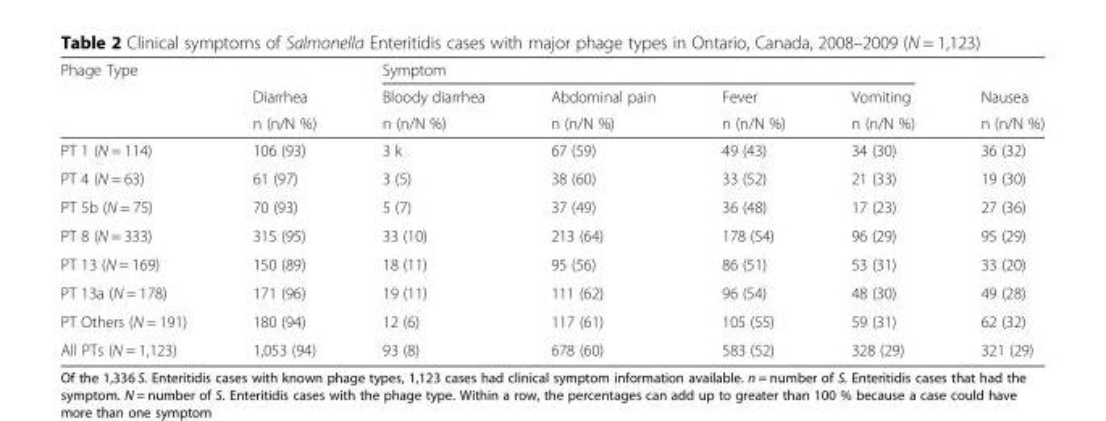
<table><thead><tr><td rowspan="3">Phage Type</td><td rowspan="3">Diarrhea n (n/N %)</td><td colspan="4">Symptom</td><td rowspan="3">Nausea n (n/N %)</td></tr><tr><td rowspan="2">Bloody diarrhea n (n/N %)</td><td rowspan="2">Abdominal pain n (n/N %)</td><td rowspan="2">Fever n (n/N %)</td><td rowspan="2">Vomiting n (n/N %)</td></tr><tr></tr></thead><tbody><tr><td>PT 1 (N = 114)</td><td>106 (93)</td><td>3 k</td><td>67 (59)</td><td>49 (43)</td><td>34 (30)</td><td>36 (32)</td></tr><tr><td>PT 4 (N = 63)</td><td>61 (97)</td><td>3 (5)</td><td>38 (60)</td><td>33 (52)</td><td>21 (33)</td><td>19 (30)</td></tr><tr><td>PT 5b (N = 75)</td><td>70 (93)</td><td>5 (7)</td><td>37 (49)</td><td>36 (48)</td><td>17 (23)</td><td>27 (36)</td></tr><tr><td>PT 8 (N = 333)</td><td>315 (95)</td><td>33 (10)</td><td>213 (64)</td><td>178 (54)</td><td>96 (29)</td><td>95 (29)</td></tr><tr><td>PT 13 (N = 169)</td><td>150 (89)</td><td>18 (11)</td><td>95 (56)</td><td>86 (51)</td><td>53 (31)</td><td>33 (20)</td></tr><tr><td>PT 13a (N = 178)</td><td>171 (96)</td><td>19 (11)</td><td>111 (62)</td><td>96 (54)</td><td>48 (30)</td><td>49 (28)</td></tr><tr><td>PT Others (N = 191)</td><td>180 (94)</td><td>12 (6)</td><td>117 (61)</td><td>105 (55)</td><td>59 (31)</td><td>62 (32)</td></tr><tr><td>All PTs (N = 1,123)</td><td>1,053 (94)</td><td>93 (8)</td><td>678 (60)</td><td>583 (52)</td><td>328 (29)</td><td>321 (29)</td></tr></tbody></table>